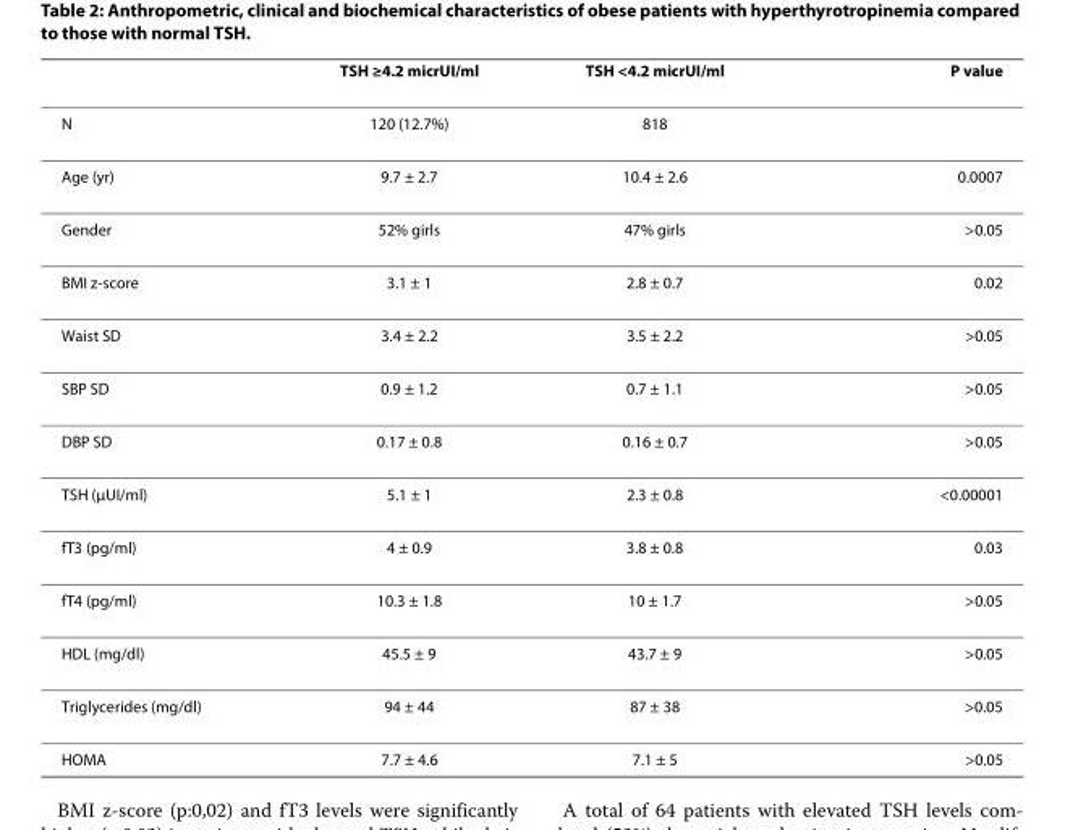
<table><thead><tr><td></td><td>TSH ≥4.2 micrUI/ml</td><td>TSH &lt;4.2 micrUI/ml</td><td>P value</td></tr></thead><tbody><tr><td>N</td><td>120 (12.7%)</td><td>818</td><td></td></tr><tr><td>Age (yr)</td><td>9.7 ± 2.7</td><td>10.4 ± 2.6</td><td>0.0007</td></tr><tr><td>Gender</td><td>52% girls</td><td>47% girls</td><td>&gt;0.05</td></tr><tr><td>BMI z-score</td><td>3.1 ± 1</td><td>2.8 ± 0.7</td><td>0.02</td></tr><tr><td>Waist SD</td><td>3.4 ± 2.2</td><td>3.5 ± 2.2</td><td>&gt;0.05</td></tr><tr><td>SBP SD</td><td>0.9 ± 1.2</td><td>0.7 ± 1.1</td><td>&gt;0.05</td></tr><tr><td>DBP SD</td><td>0.17 ± 0.8</td><td>0.16 ± 0.7</td><td>&gt;0.05</td></tr><tr><td>TSH (μUI/ml)</td><td>5.1 ± 1</td><td>2.3 ± 0.8</td><td>&lt;0.00001</td></tr><tr><td>fT3 (pg/ml)</td><td>4 ± 0.9</td><td>3.8 ± 0.8</td><td>0.03</td></tr><tr><td>fT4 (pg/ml)</td><td>10.3 ± 1.8</td><td>10 ± 1.7</td><td>&gt;0.05</td></tr><tr><td>HDL (mg/dl)</td><td>45.5 ± 9</td><td>43.7 ± 9</td><td>&gt;0.05</td></tr><tr><td>Triglycerides (mg/dl)</td><td>94 ± 44</td><td>87 ± 38</td><td>&gt;0.05</td></tr><tr><td>HOMA</td><td>7.7 ± 4.6</td><td>7.1 ± 5</td><td>&gt;0.05</td></tr></tbody></table>